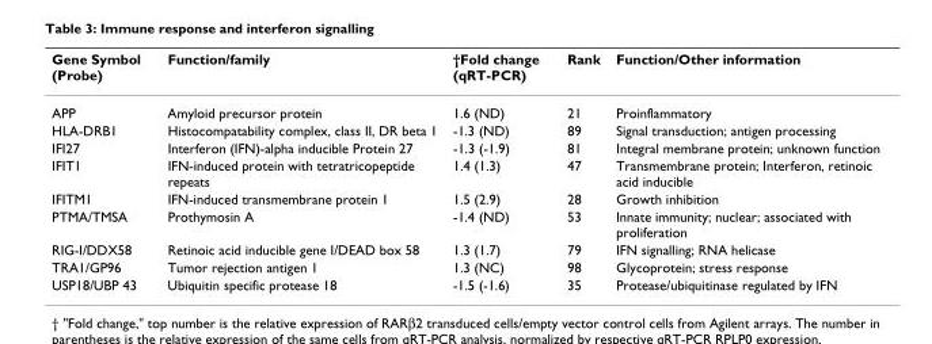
<table><thead><tr><td>Gene Symbol (Probe)</td><td>Function/family</td><td>†Fold change (qRT-PCR)</td><td>Rank</td><td>Function/Other information</td></tr></thead><tbody><tr><td>APP</td><td>Amyloid precursor protein</td><td>1.6 (ND)</td><td>21</td><td>Proinflammatory</td></tr><tr><td>HLA-DRB1</td><td>Histocompatability complex, class II, DR beta 1</td><td>-1.3 (ND)</td><td>89</td><td>Signal transduction; antigen processing</td></tr><tr><td>IFI27</td><td>Interferon (IFN)-alpha inducible Protein 27</td><td>-1.3 (-1.9)</td><td>81</td><td>Integral membrane protein; unknown function</td></tr><tr><td>IFIT1</td><td>IFN-induced protein with tetratricopeptide repeats</td><td>1.4 (1.3)</td><td>47</td><td>Transmembrane protein; Interferon, retinoic acid inducible</td></tr><tr><td>IFITM1</td><td>IFN-induced transmembrane protein 1</td><td>1.5 (2.9)</td><td>28</td><td>Growth inhibition</td></tr><tr><td>PTMA/TMSA</td><td>Prothymosin A</td><td>-1.4 (ND)</td><td>53</td><td>Innate immunity; nuclear; associated with proliferation</td></tr><tr><td>RIG-I/DDX58</td><td>Retinoic acid inducible gene I/DEAD box 58</td><td>1.3 (1.7)</td><td>79</td><td>IFN signalling; RNA helicase</td></tr><tr><td>TRA1/GP96</td><td>Tumor rejection antigen 1</td><td>1.3 (NC)</td><td>98</td><td>Glycoprotein; stress response</td></tr><tr><td>USP18/UBP 43</td><td>Ubiquitin specific protease 18</td><td>-1.5 (-1.6)</td><td>35</td><td>Protease/ubiquitinase regulated by IFN</td></tr></tbody></table>